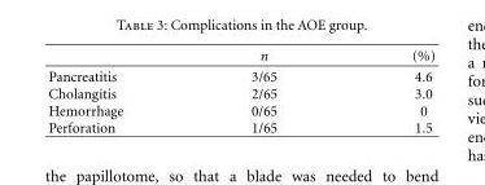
<table><thead><tr><td></td><td>n</td><td>(%)</td></tr></thead><tbody><tr><td>Pancreatitis</td><td>3/65</td><td>4.6</td></tr><tr><td>Cholangitis</td><td>2/65</td><td>3.0</td></tr><tr><td>Hemorrhage</td><td>0/65</td><td>0</td></tr><tr><td>Perforation</td><td>1/65</td><td>1.5</td></tr></tbody></table>